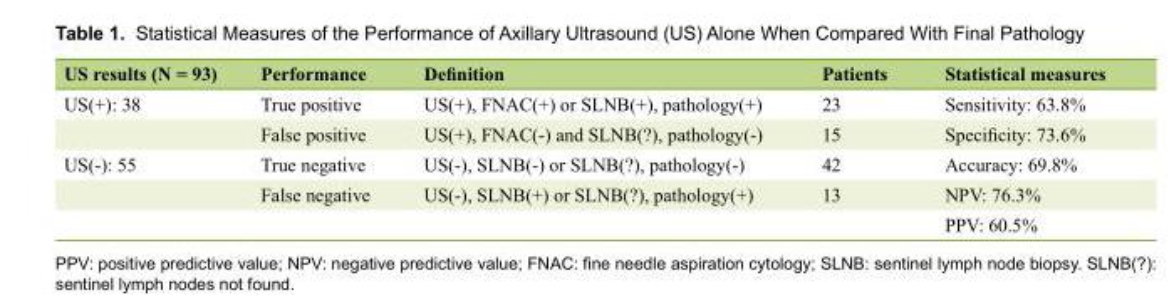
<table><thead><tr><td>US results (N = 93)</td><td>Performance</td><td>Definition</td><td>Patients</td><td>Statistical measures</td></tr></thead><tbody><tr><td rowspan="2">US(+): 38</td><td>True positive</td><td>US(+), FNAC(+) or SLNB(+), pathology(+)</td><td>23</td><td>Sensitivity: 63.8%</td></tr><tr><td>False positive</td><td>US(+), FNAC(-) and SLNB(?), pathology(-)</td><td>15</td><td>Specificity: 73.6%</td></tr><tr><td rowspan="3">US(-): 55</td><td>True negative</td><td>US(-), SLNB(-) or SLNB(?), pathology(-)</td><td>42</td><td>Accuracy: 69.8%</td></tr><tr><td>False negative</td><td>US(-), SLNB(+) or SLNB(?), pathology(+)</td><td>13</td><td>NPV: 76.3%</td></tr><tr><td></td><td></td><td></td><td>PPV: 60.5%</td></tr></tbody></table>